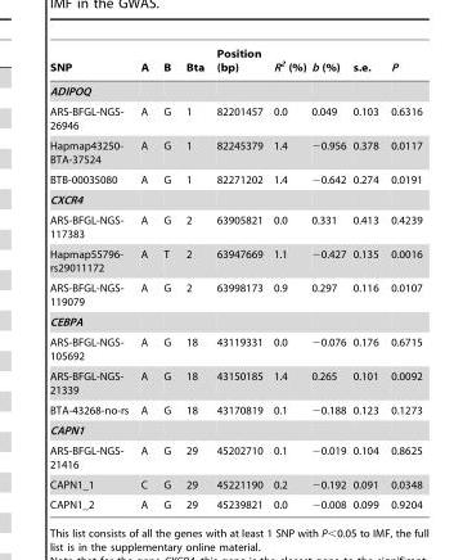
<table><thead><tr><td>SNP</td><td>A</td><td>B</td><td>Bta</td><td>Position (bp)</td><td>R<sup>2</sup> (%)</td><td>b (%)</td><td>s.e.</td><td>P</td></tr></thead><tbody><tr><td colspan="9">ADIPOQ</td></tr><tr><td>ARS-BFGL-NGS- 26946</td><td>A</td><td>G</td><td>1</td><td>82201457</td><td>0.0</td><td>0.049</td><td>0.103</td><td>0.6316</td></tr><tr><td>Hapmap43250- BTA-37524</td><td>A</td><td>G</td><td>1</td><td>82245379</td><td>1.4</td><td>−0.956</td><td>0.378</td><td>0.0117</td></tr><tr><td>BTB-00035080</td><td>A</td><td>G</td><td>1</td><td>82271202</td><td>1.4</td><td>−0.642</td><td>0.274</td><td>0.0191</td></tr><tr><td colspan="9">CXCR4</td></tr><tr><td>ARS-BFGL-NGS- 117383</td><td>A</td><td>G</td><td>2</td><td>63905821</td><td>0.0</td><td>0.331</td><td>0.413</td><td>0.4239</td></tr><tr><td>Hapmap55796- rs29011172</td><td>A</td><td>T</td><td>2</td><td>63947669</td><td>1.1</td><td>−0.427</td><td>0.135</td><td>0.0016</td></tr><tr><td>ARS-BFGL-NGS- 119079</td><td>A</td><td>G</td><td>2</td><td>63998173</td><td>0.9</td><td>0.297</td><td>0.116</td><td>0.0107</td></tr><tr><td colspan="9">CEBPA</td></tr><tr><td>ARS-BFGL-NGS- 105692</td><td>A</td><td>G</td><td>18</td><td>43119331</td><td>0.0</td><td>−0.076</td><td>0.176</td><td>0.6715</td></tr><tr><td>ARS-BFGL-NGS- 21339</td><td>A</td><td>G</td><td>18</td><td>43150185</td><td>1.4</td><td>0.265</td><td>0.101</td><td>0.0092</td></tr><tr><td>BTA-43268-no-rs</td><td>A</td><td>G</td><td>18</td><td>43170819</td><td>0.1</td><td>−0.188</td><td>0.123</td><td>0.1273</td></tr><tr><td colspan="9">CAPN1</td></tr><tr><td>ARS-BFGL-NGS- 21416</td><td>A</td><td>G</td><td>29</td><td>45202710</td><td>0.1</td><td>−0.019</td><td>0.104</td><td>0.8625</td></tr><tr><td>CAPN1_1</td><td>C</td><td>G</td><td>29</td><td>45221190</td><td>0.2</td><td>−0.192</td><td>0.091</td><td>0.0348</td></tr><tr><td>CAPN1_2</td><td>A</td><td>G</td><td>29</td><td>45239821</td><td>0.0</td><td>−0.008</td><td>0.099</td><td>0.9204</td></tr></tbody></table>